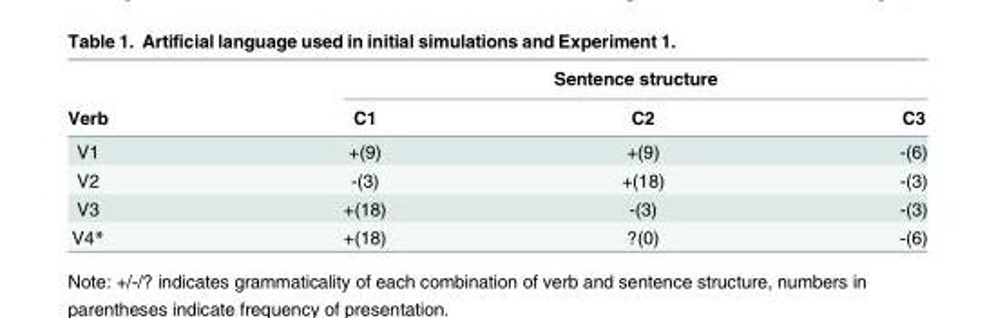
<table><thead><tr><td rowspan="2">Verb</td><td colspan="3">Sentence structure</td></tr><tr><td>C1</td><td>C2</td><td>C3</td></tr></thead><tbody><tr><td>V1</td><td>+(9)</td><td>+(9)</td><td>-(6)</td></tr><tr><td>V2</td><td>-(3)</td><td>+(18)</td><td>-(3)</td></tr><tr><td>V3</td><td>+(18)</td><td>-(3)</td><td>-(3)</td></tr><tr><td>V4*</td><td>+(18)</td><td>?(0)</td><td>-(6)</td></tr></tbody></table>